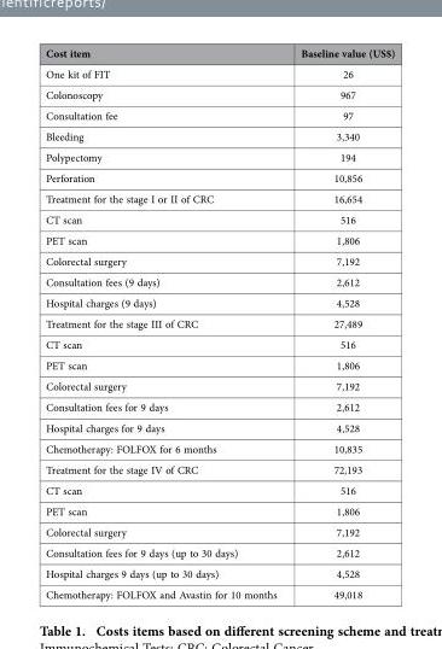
<table><thead><tr><td>Cost item</td><td>Baseline value (US$)</td></tr></thead><tbody><tr><td>One kit of FIT</td><td>26</td></tr><tr><td>Colonoscopy</td><td>967</td></tr><tr><td>Consultation fee</td><td>97</td></tr><tr><td>Bleeding</td><td>3,340</td></tr><tr><td>Polypectomy</td><td>194</td></tr><tr><td>Perforation</td><td>10,856</td></tr><tr><td>Treatment for the stage I or II of CRC</td><td>16,654</td></tr><tr><td>CT scan</td><td>516</td></tr><tr><td>PET scan</td><td>1,806</td></tr><tr><td>Colorectal surgery</td><td>7,192</td></tr><tr><td>Consultation fees (9 days)</td><td>2,612</td></tr><tr><td>Hospital charges (9 days)</td><td>4,528</td></tr><tr><td>Treatment for the stage III of CRC</td><td>27,489</td></tr><tr><td>CT scan</td><td>516</td></tr><tr><td>PET scan</td><td>1,806</td></tr><tr><td>Colorectal surgery</td><td>7,192</td></tr><tr><td>Consultation fees for 9 days</td><td>2,612</td></tr><tr><td>Hospital charges for 9 days</td><td>4,528</td></tr><tr><td>Chemotherapy: FOLFOX for 6 months</td><td>10,835</td></tr><tr><td>Treatment for the stage IV of CRC</td><td>72,193</td></tr><tr><td>CT scan</td><td>516</td></tr><tr><td>PET scan</td><td>1,806</td></tr><tr><td>Colorectal surgery</td><td>7,192</td></tr><tr><td>Consultation fees for 9 days (up to 30 days)</td><td>2,612</td></tr><tr><td>Hospital charges 9 days (up to 30 days)</td><td>4,528</td></tr><tr><td>Chemotherapy: FOLFOX and Avastin for 10 months</td><td>49,018</td></tr></tbody></table>